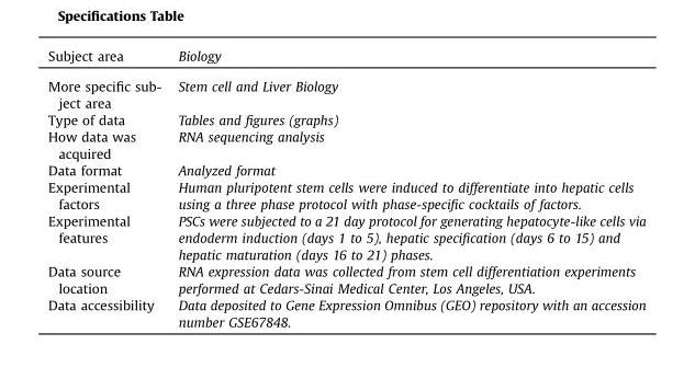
<table><thead><tr><td>Subject area</td><td>Biology</td></tr></thead><tbody><tr><td>More specific sub- ject area</td><td>Stem cell and Liver Biology</td></tr><tr><td>Type of data</td><td>Tables and figures (graphs)</td></tr><tr><td>How data was acquired</td><td>RNA sequencing analysis</td></tr><tr><td>Data format</td><td>Analyzed format</td></tr><tr><td>Experimental factors</td><td>Human pluripotent stem cells were induced to differentiate into hepatic cells using a three phase protocol with phase-specific cocktails of factors.</td></tr><tr><td>Experimental features</td><td>PSCs were subjected to a 21 day protocol for generating hepatocyte-like cells via endoderm induction (days 1 to 5), hepatic specification (days 6 to 15) and hepatic maturation (days 16 to 21) phases.</td></tr><tr><td>Data source location</td><td>RNA expression data was collected from stem cell differentiation experiments performed at Cedars-Sinai Medical Center, Los Angeles, USA.</td></tr><tr><td>Data accessibility</td><td>Data deposited to Gene Expression Omnibus (GEO) repository with an accession number GSE67848.</td></tr></tbody></table>